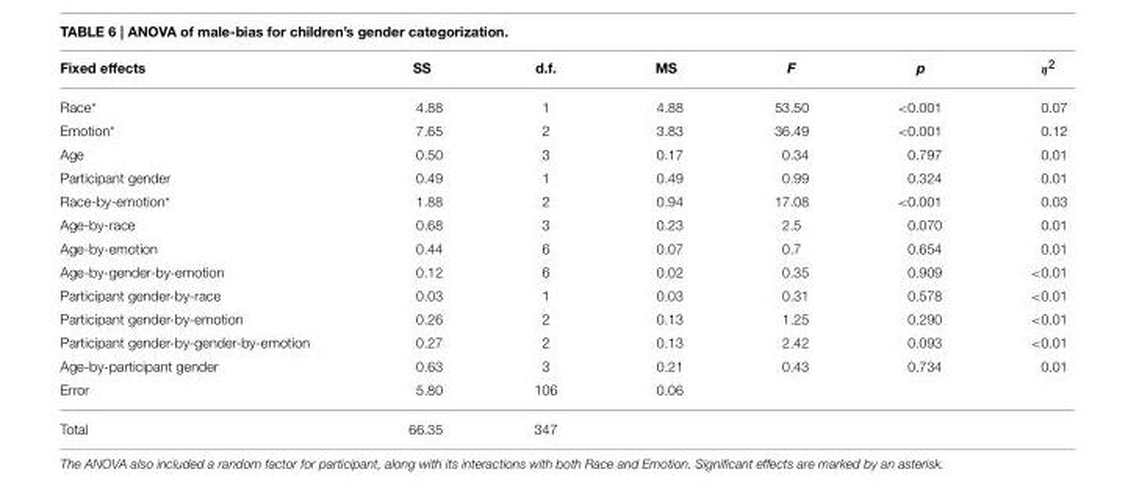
<table><thead><tr><td>Fixed effects</td><td>SS</td><td>d.f.</td><td>MS</td><td>F</td><td>p</td><td>η<sup>2</sup></td></tr></thead><tbody><tr><td>Race*</td><td>4.88</td><td>1</td><td>4.88</td><td>53.50</td><td>&lt;0.001</td><td>0.07</td></tr><tr><td>Emotion*</td><td>7.65</td><td>2</td><td>3.83</td><td>36.49</td><td>&lt;0.001</td><td>0.12</td></tr><tr><td>Age</td><td>0.50</td><td>3</td><td>0.17</td><td>0.34</td><td>0.797</td><td>0.01</td></tr><tr><td>Participant gender</td><td>0.49</td><td>1</td><td>0.49</td><td>0.99</td><td>0.324</td><td>0.01</td></tr><tr><td>Race-by-emotion*</td><td>1.88</td><td>2</td><td>0.94</td><td>17.08</td><td>&lt;0.001</td><td>0.03</td></tr><tr><td>Age-by-race</td><td>0.68</td><td>3</td><td>0.23</td><td>2.5</td><td>0.070</td><td>0.01</td></tr><tr><td>Age-by-emotion</td><td>0.44</td><td>6</td><td>0.07</td><td>0.7</td><td>0.654</td><td>0.01</td></tr><tr><td>Age-by-gender-by-emotion</td><td>0.12</td><td>6</td><td>0.02</td><td>0.35</td><td>0.909</td><td>&lt;0.01</td></tr><tr><td>Participant gender-by-race</td><td>0.03</td><td>1</td><td>0.03</td><td>0.31</td><td>0.578</td><td>&lt;0.01</td></tr><tr><td>Participant gender-by-emotion</td><td>0.26</td><td>2</td><td>0.13</td><td>1.25</td><td>0.290</td><td>&lt;0.01</td></tr><tr><td>Participant gender-by-gender-by-emotion</td><td>0.27</td><td>2</td><td>0.13</td><td>2.42</td><td>0.093</td><td>&lt;0.01</td></tr><tr><td>Age-by-participant gender</td><td>0.63</td><td>3</td><td>0.21</td><td>0.43</td><td>0.734</td><td>0.01</td></tr><tr><td>Error</td><td>5.80</td><td>106</td><td>0.06</td><td></td><td></td><td></td></tr><tr><td>Total</td><td>66.35</td><td>347</td><td></td><td></td><td></td><td></td></tr></tbody></table>